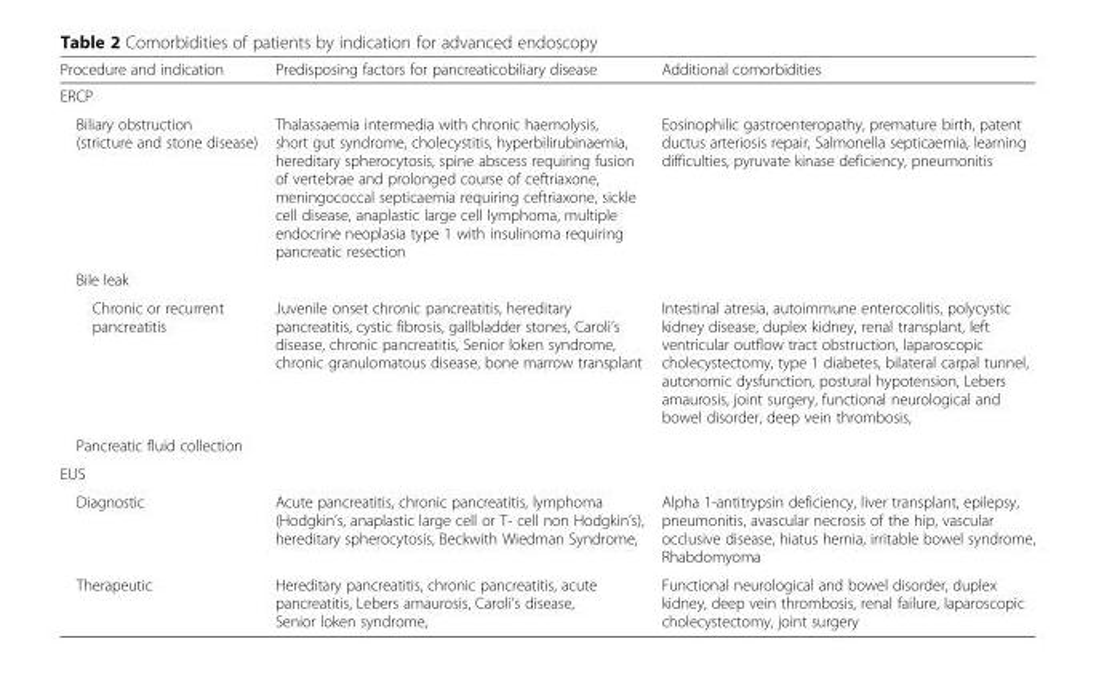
<table><thead><tr><td>Procedure and indication</td><td>Predisposing factors for pancreaticobiliary disease</td><td>Additional comorbidities</td></tr></thead><tbody><tr><td colspan="3">ERCP</td></tr><tr><td>Biliary obstruction (stricture and stone disease)</td><td>Thalassaemia intermedia with chronic haemolysis, short gut syndrome, cholecystitis, hyperbilirubinaemia, hereditary spherocytosis, spine abscess requiring fusion of vertebrae and prolonged course of ceftriaxone, meningococcal septicaemia requiring ceftriaxone, sickle cell disease, anaplastic large cell lymphoma, multiple endocrine neoplasia type 1 with insulinoma requiring pancreatic resection</td><td>Eosinophilic gastroenteropathy, premature birth, patent ductus arteriosis repair, Salmonella septicaemia, learning difficulties, pyruvate kinase deficiency, pneumonitis</td></tr><tr><td colspan="3">Bile leak</td></tr><tr><td>Chronic or recurrent pancreatitis</td><td>Juvenile onset chronic pancreatitis, hereditary pancreatitis, cystic fibrosis, gallbladder stones, Caroli’s disease, chronic pancreatitis, Senior loken syndrome, chronic granulomatous disease, bone marrow transplant</td><td>Intestinal atresia, autoimmune enterocolitis, polycystic kidney disease, duplex kidney, renal transplant, left ventricular outflow tract obstruction, laparoscopic cholecystectomy, type 1 diabetes, bilateral carpal tunnel, autonomic dysfunction, postural hypotension, Lebers amaurosis, joint surgery, functional neurological and bowel disorder, deep vein thrombosis,</td></tr><tr><td colspan="3">Pancreatic fluid collection</td></tr><tr><td colspan="3">EUS</td></tr><tr><td>Diagnostic</td><td>Acute pancreatitis, chronic pancreatitis, lymphoma (Hodgkin’s, anaplastic large cell or T- cell non Hodgkin’s), hereditary spherocytosis, Beckwith Wiedman Syndrome,</td><td>Alpha 1-antitrypsin deficiency, liver transplant, epilepsy, pneumonitis, avascular necrosis of the hip, vascular occlusive disease, hiatus hernia, irritable bowel syndrome, Rhabdomyoma</td></tr><tr><td>Therapeutic</td><td>Hereditary pancreatitis, chronic pancreatitis, acute pancreatitis, Lebers amaurosis, Caroli’s disease, Senior loken syndrome,</td><td>Functional neurological and bowel disorder, duplex kidney, deep vein thrombosis, renal failure, laparoscopic cholecystectomy, joint surgery</td></tr></tbody></table>